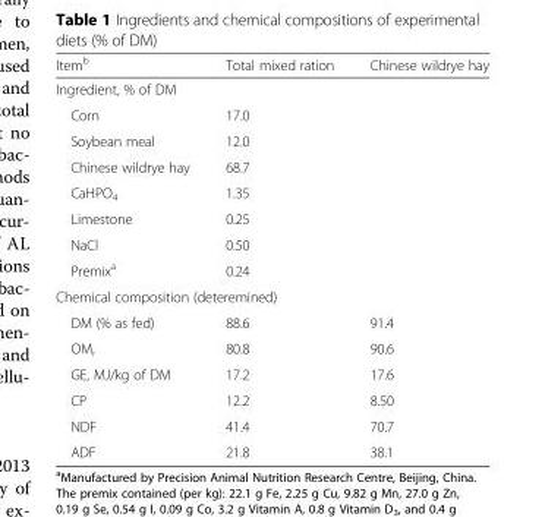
<table><thead><tr><td>Item<sup>b</sup></td><td>Total mixed ration</td><td>Chinese wildrye hay</td></tr></thead><tbody><tr><td colspan="3">Ingredient, % of DM</td></tr><tr><td>Corn</td><td>17.0</td><td></td></tr><tr><td>Soybean meal</td><td>12.0</td><td></td></tr><tr><td>Chinese wildrye hay</td><td>68.7</td><td></td></tr><tr><td>CaHPO<sub>4</sub></td><td>1.35</td><td></td></tr><tr><td>Limestone</td><td>0.25</td><td></td></tr><tr><td>NaCl</td><td>0.50</td><td></td></tr><tr><td>Premix<sup>a</sup></td><td>0.24</td><td></td></tr><tr><td colspan="3">Chemical composition (deteremined)</td></tr><tr><td>DM (% as fed)</td><td>88.6</td><td>91.4</td></tr><tr><td>OM,</td><td>80.8</td><td>90.6</td></tr><tr><td>GE, MJ/kg of DM</td><td>17.2</td><td>17.6</td></tr><tr><td>CP</td><td>12.2</td><td>8.50</td></tr><tr><td>NDF</td><td>41.4</td><td>70.7</td></tr><tr><td>ADF</td><td>21.8</td><td>38.1</td></tr></tbody></table>